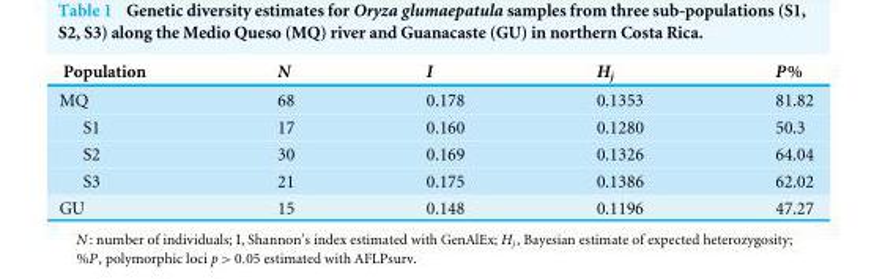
<table><thead><tr><td>Population</td><td>N</td><td>I</td><td>H<sub>j</sub></td><td>P%</td></tr></thead><tbody><tr><td>MQ</td><td>68</td><td>0.178</td><td>0.1353</td><td>81.82</td></tr><tr><td>S1</td><td>17</td><td>0.160</td><td>0.1280</td><td>50.3</td></tr><tr><td>S2</td><td>30</td><td>0.169</td><td>0.1326</td><td>64.04</td></tr><tr><td>S3</td><td>21</td><td>0.175</td><td>0.1386</td><td>62.02</td></tr><tr><td>GU</td><td>15</td><td>0.148</td><td>0.1196</td><td>47.27</td></tr></tbody></table>